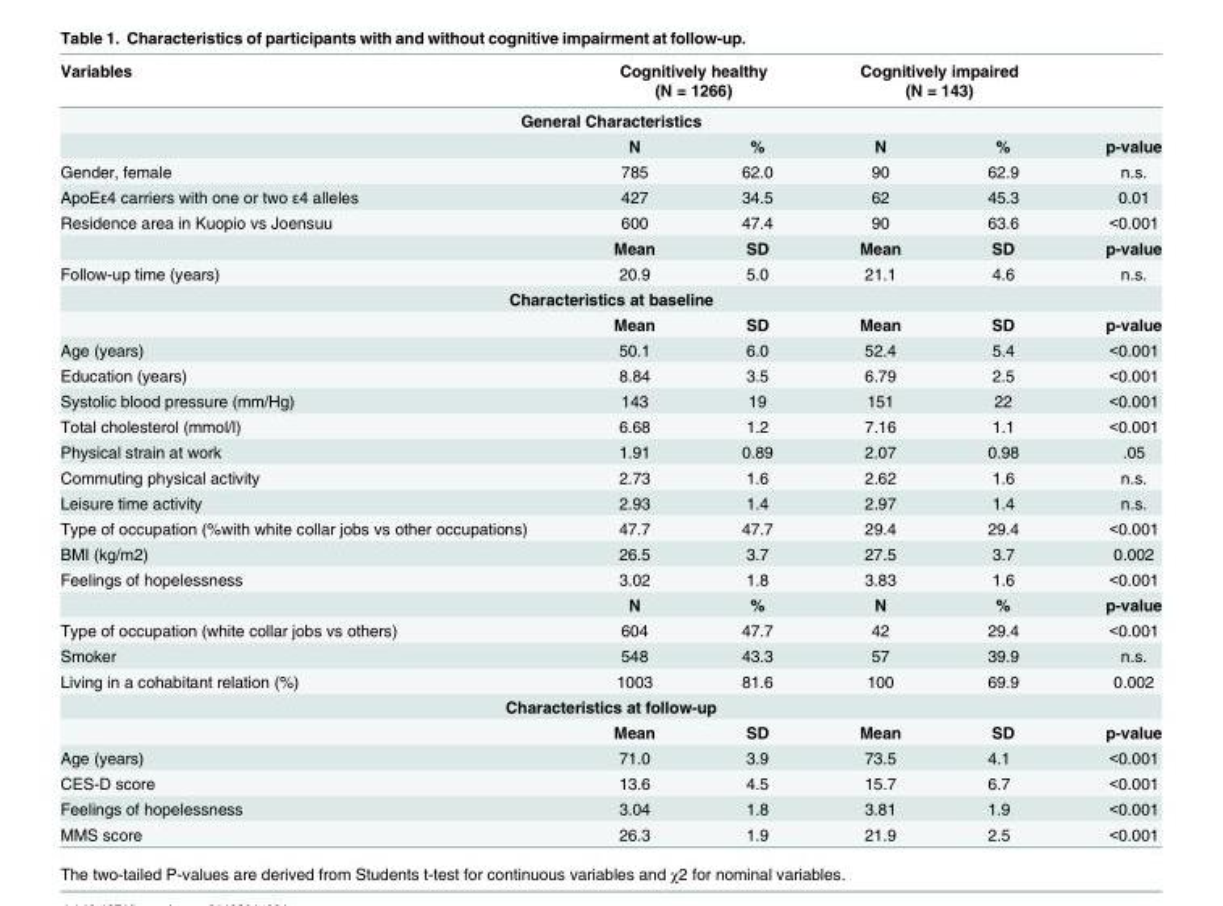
<table><thead><tr><td>Variables</td><td colspan="2">Cognitively healthy (N = 1266)</td><td colspan="2">Cognitively impaired (N = 143)</td><td></td></tr><tr><td colspan="6">General Characteristics</td></tr><tr><td></td><td>N</td><td>%</td><td>N</td><td>%</td><td>p-value</td></tr></thead><tbody><tr><td>Gender, female</td><td>785</td><td>62.0</td><td>90</td><td>62.9</td><td>n.s.</td></tr><tr><td>ApoEε4 carriers with one or two ε4 alleles</td><td>427</td><td>34.5</td><td>62</td><td>45.3</td><td>0.01</td></tr><tr><td rowspan="2">Residence area in Kuopio vs Joensuu</td><td>600</td><td>47.4</td><td>90</td><td>63.6</td><td>&lt;0.001</td></tr><tr><td>Mean</td><td>SD</td><td>Mean</td><td>SD</td><td>p-value</td></tr><tr><td>Follow-up time (years)</td><td>20.9</td><td>5.0</td><td>21.1</td><td>4.6</td><td>n.s.</td></tr><tr><td colspan="6">Characteristics at baseline</td></tr><tr><td></td><td>Mean</td><td>SD</td><td>Mean</td><td>SD</td><td>p-value</td></tr><tr><td>Age (years)</td><td>50.1</td><td>6.0</td><td>52.4</td><td>5.4</td><td>&lt;0.001</td></tr><tr><td>Education (years)</td><td>8.84</td><td>3.5</td><td>6.79</td><td>2.5</td><td>&lt;0.001</td></tr><tr><td>Systolic blood pressure (mm/Hg)</td><td>143</td><td>19</td><td>151</td><td>22</td><td>&lt;0.001</td></tr><tr><td>Total cholesterol (mmol/l)</td><td>6.68</td><td>1.2</td><td>7.16</td><td>1.1</td><td>&lt;0.001</td></tr><tr><td>Physical strain at work</td><td>1.91</td><td>0.89</td><td>2.07</td><td>0.98</td><td>.05</td></tr><tr><td>Commuting physical activity</td><td>2.73</td><td>1.6</td><td>2.62</td><td>1.6</td><td>n.s.</td></tr><tr><td>Leisure time activity</td><td>2.93</td><td>1.4</td><td>2.97</td><td>1.4</td><td>n.s.</td></tr><tr><td>Type of occupation (%with white collar jobs vs other occupations)</td><td>47.7</td><td>47.7</td><td>29.4</td><td>29.4</td><td>&lt;0.001</td></tr><tr><td>BMI (kg/m2)</td><td>26.5</td><td>3.7</td><td>27.5</td><td>3.7</td><td>0.002</td></tr><tr><td rowspan="2">Feelings of hopelessness</td><td>3.02</td><td>1.8</td><td>3.83</td><td>1.6</td><td>&lt;0.001</td></tr><tr><td>N</td><td>%</td><td>N</td><td>%</td><td>p-value</td></tr><tr><td>Type of occupation (white collar jobs vs others)</td><td>604</td><td>47.7</td><td>42</td><td>29.4</td><td>&lt;0.001</td></tr><tr><td>Smoker</td><td>548</td><td>43.3</td><td>57</td><td>39.9</td><td>n.s.</td></tr><tr><td>Living in a cohabitant relation (%)</td><td>1003</td><td>81.6</td><td>100</td><td>69.9</td><td>0.002</td></tr><tr><td colspan="6">Characteristics at follow-up</td></tr><tr><td></td><td>Mean</td><td>SD</td><td>Mean</td><td>SD</td><td>p-value</td></tr><tr><td>Age (years)</td><td>71.0</td><td>3.9</td><td>73.5</td><td>4.1</td><td>&lt;0.001</td></tr><tr><td>CES-D score</td><td>13.6</td><td>4.5</td><td>15.7</td><td>6.7</td><td>&lt;0.001</td></tr><tr><td>Feelings of hopelessness</td><td>3.04</td><td>1.8</td><td>3.81</td><td>1.9</td><td>&lt;0.001</td></tr><tr><td>MMS score</td><td>26.3</td><td>1.9</td><td>21.9</td><td>2.5</td><td>&lt;0.001</td></tr></tbody></table>